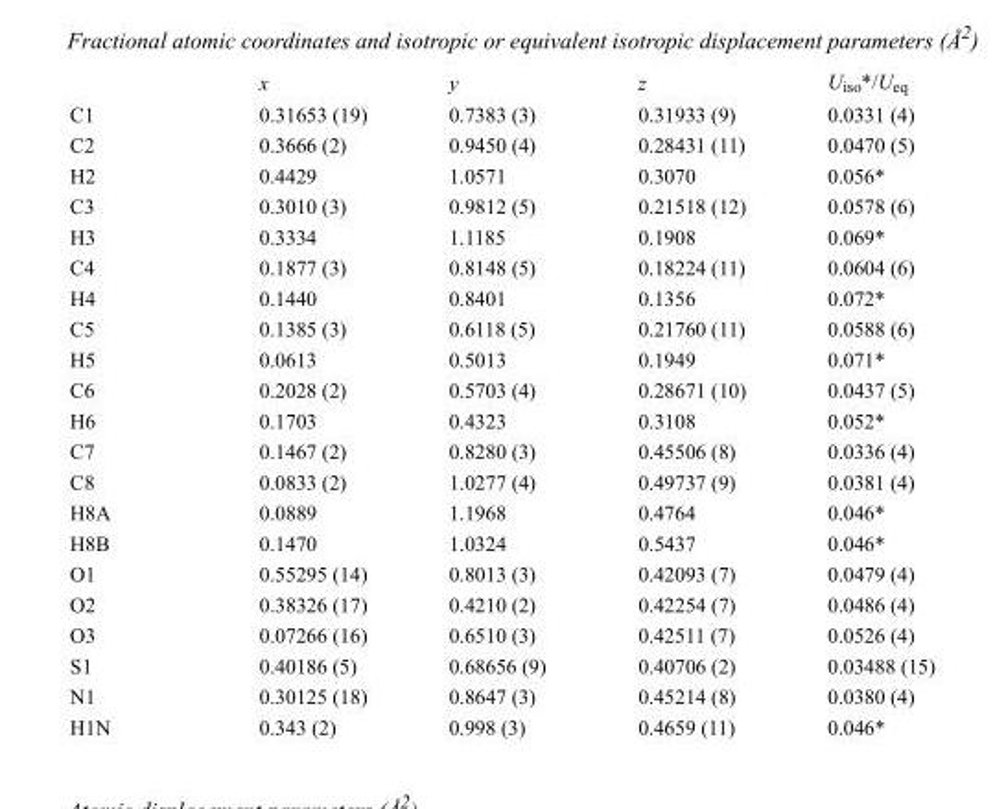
<table><thead><tr><td></td><td>x</td><td>y</td><td>z</td><td>U<sub>iso</sub>*/U<sub>eq</sub></td></tr></thead><tbody><tr><td>C1</td><td>0.31653 (19)</td><td>0.7383 (3)</td><td>0.31933 (9)</td><td>0.0331 (4)</td></tr><tr><td>C2</td><td>0.3666 (2)</td><td>0.9450 (4)</td><td>0.28431 (11)</td><td>0.0470 (5)</td></tr><tr><td>H2</td><td>0.4429</td><td>1.0571</td><td>0.3070</td><td>0.056*</td></tr><tr><td>C3</td><td>0.3010 (3)</td><td>0.9812 (5)</td><td>0.21518 (12)</td><td>0.0578 (6)</td></tr><tr><td>H3</td><td>0.3334</td><td>1.1185</td><td>0.1908</td><td>0.069*</td></tr><tr><td>C4</td><td>0.1877 (3)</td><td>0.8148 (5)</td><td>0.18224 (11)</td><td>0.0604 (6)</td></tr><tr><td>H4</td><td>0.1440</td><td>0.8401</td><td>0.1356</td><td>0.072*</td></tr><tr><td>C5</td><td>0.1385 (3)</td><td>0.6118 (5)</td><td>0.21760 (11)</td><td>0.0588 (6)</td></tr><tr><td>H5</td><td>0.0613</td><td>0.5013</td><td>0.1949</td><td>0.071*</td></tr><tr><td>C6</td><td>0.2028 (2)</td><td>0.5703 (4)</td><td>0.28671 (10)</td><td>0.0437 (5)</td></tr><tr><td>H6</td><td>0.1703</td><td>0.4323</td><td>0.3108</td><td>0.052*</td></tr><tr><td>C7</td><td>0.1467 (2)</td><td>0.8280 (3)</td><td>0.45506 (8)</td><td>0.0336 (4)</td></tr><tr><td>C8</td><td>0.0833 (2)</td><td>1.0277 (4)</td><td>0.49737 (9)</td><td>0.0381 (4)</td></tr><tr><td>H8A</td><td>0.0889</td><td>1.1968</td><td>0.4764</td><td>0.046*</td></tr><tr><td>H8B</td><td>0.1470</td><td>1.0324</td><td>0.5437</td><td>0.046*</td></tr><tr><td>O1</td><td>0.55295 (14)</td><td>0.8013 (3)</td><td>0.42093 (7)</td><td>0.0479 (4)</td></tr><tr><td>O2</td><td>0.38326 (17)</td><td>0.4210 (2)</td><td>0.42254 (7)</td><td>0.0486 (4)</td></tr><tr><td>O3</td><td>0.07266 (16)</td><td>0.6510 (3)</td><td>0.42511 (7)</td><td>0.0526 (4)</td></tr><tr><td>S1</td><td>0.40186 (5)</td><td>0.68656 (9)</td><td>0.40706 (2)</td><td>0.03488 (15)</td></tr><tr><td>N1</td><td>0.30125 (18)</td><td>0.8647 (3)</td><td>0.45214 (8)</td><td>0.0380 (4)</td></tr><tr><td>H1N</td><td>0.343 (2)</td><td>0.998 (3)</td><td>0.4659 (11)</td><td>0.046*</td></tr></tbody></table>